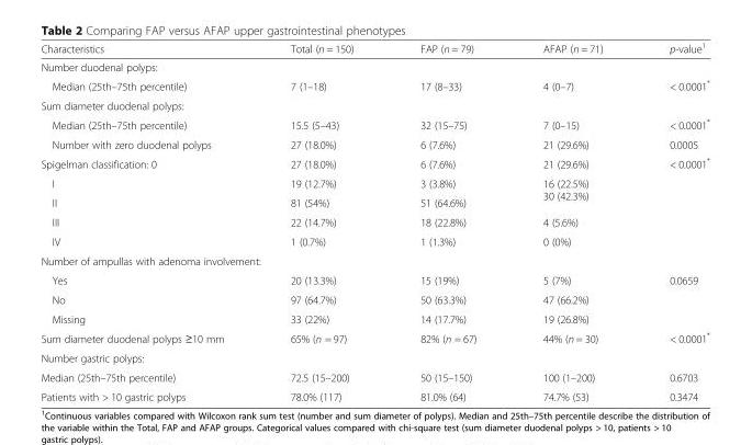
<table><thead><tr><td>Characteristics</td><td>Total (n = 150)</td><td>FAP (n = 79)</td><td>AFAP (n = 71)</td><td>p-value<sup>1</sup></td></tr></thead><tbody><tr><td colspan="5">Number duodenal polyps:</td></tr><tr><td>Median (25th–75th percentile)</td><td>7 (1–18)</td><td>17 (8–33)</td><td>4 (0–7)</td><td>&lt; 0.0001*</td></tr><tr><td colspan="5">Sum diameter duodenal polyps:</td></tr><tr><td>Median (25th–75th percentile)</td><td>15.5 (5–43)</td><td>32 (15–75)</td><td>7 (0–15)</td><td>&lt; 0.0001*</td></tr><tr><td>Number with zero duodenal polyps</td><td>27 (18.0%)</td><td>6 (7.6%)</td><td>21 (29.6%)</td><td>0.0005</td></tr><tr><td>Spigelman classification: 0</td><td>27 (18.0%)</td><td>6 (7.6%)</td><td>21 (29.6%)</td><td rowspan="5">&lt; 0.0001*</td></tr><tr><td>I</td><td>19 (12.7%)</td><td>3 (3.8%)</td><td rowspan="2">16 (22.5%) 30 (42.3%)</td></tr><tr><td>II</td><td>81 (54%)</td><td>51 (64.6%)</td></tr><tr><td>III</td><td>22 (14.7%)</td><td>18 (22.8%)</td><td>4 (5.6%)</td></tr><tr><td>IV</td><td>1 (0.7%)</td><td>1 (1.3%)</td><td>0 (0%)</td></tr><tr><td colspan="5">Number of ampullas with adenoma involvement:</td></tr><tr><td>Yes</td><td>20 (13.3%)</td><td>15 (19%)</td><td>5 (7%)</td><td rowspan="3">0.0659</td></tr><tr><td>No</td><td>97 (64.7%)</td><td>50 (63.3%)</td><td>47 (66.2%)</td></tr><tr><td>Missing</td><td>33 (22%)</td><td>14 (17.7%)</td><td>19 (26.8%)</td></tr><tr><td>Sum diameter duodenal polyps ≥10 mm</td><td>65% (n = 97)</td><td>82% (n = 67)</td><td>44% (n = 30)</td><td>&lt; 0.0001*</td></tr><tr><td colspan="5">Number gastric polyps:</td></tr><tr><td>Median (25th–75th percentile)</td><td>72.5 (15–200)</td><td>50 (15–150)</td><td>100 (1–200)</td><td>0.6703</td></tr><tr><td>Patients with &gt; 10 gastric polyps</td><td>78.0% (117)</td><td>81.0% (64)</td><td>74.7% (53)</td><td>0.3474</td></tr></tbody></table>